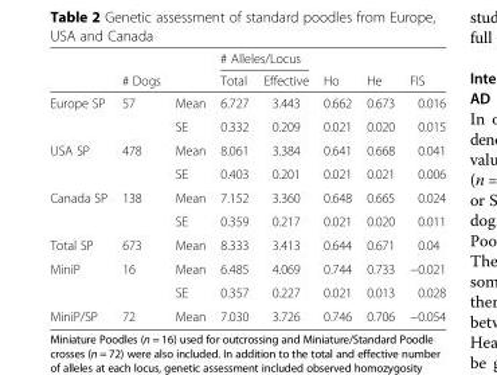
<table><thead><tr><td rowspan="2"></td><td rowspan="2"># Dogs</td><td rowspan="2"></td><td colspan="2"># Alleles/Locus</td><td rowspan="2">Ho</td><td rowspan="2">He</td><td rowspan="2">FIS</td></tr><tr><td>Total</td><td>Effective</td></tr></thead><tbody><tr><td rowspan="2">Europe SP</td><td>57</td><td>Mean</td><td>6.727</td><td>3.443</td><td>0.662</td><td>0.673</td><td>0.016</td></tr><tr><td></td><td>SE</td><td>0.332</td><td>0.209</td><td>0.021</td><td>0.020</td><td>0.015</td></tr><tr><td rowspan="2">USA SP</td><td>478</td><td>Mean</td><td>8.061</td><td>3.384</td><td>0.641</td><td>0.668</td><td>0.041</td></tr><tr><td></td><td>SE</td><td>0.403</td><td>0.201</td><td>0.021</td><td>0.021</td><td>0.006</td></tr><tr><td rowspan="2">Canada SP</td><td>138</td><td>Mean</td><td>7.152</td><td>3.360</td><td>0.648</td><td>0.665</td><td>0.024</td></tr><tr><td></td><td>SE</td><td>0.359</td><td>0.217</td><td>0.021</td><td>0.020</td><td>0.011</td></tr><tr><td>Total SP</td><td>673</td><td>Mean</td><td>8.333</td><td>3.413</td><td>0.644</td><td>0.671</td><td>0.04</td></tr><tr><td rowspan="2">MiniP</td><td>16</td><td>Mean</td><td>6.485</td><td>4.069</td><td>0.744</td><td>0.733</td><td>−0.021</td></tr><tr><td></td><td>SE</td><td>0.357</td><td>0.227</td><td>0.021</td><td>0.013</td><td>0.028</td></tr><tr><td>MiniP/SP</td><td>72</td><td>Mean</td><td>7.030</td><td>3.726</td><td>0.746</td><td>0.706</td><td>−0.054</td></tr></tbody></table>